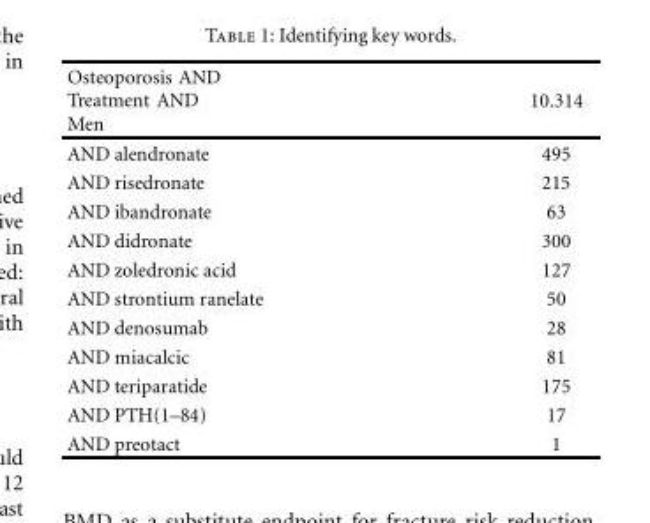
<table><thead><tr><td>Osteoporosis AND Treatment AND Men</td><td>10.314</td></tr></thead><tbody><tr><td>AND alendronate</td><td>495</td></tr><tr><td>AND risedronate</td><td>215</td></tr><tr><td>AND ibandronate</td><td>63</td></tr><tr><td>AND didronate</td><td>300</td></tr><tr><td>AND zoledronic acid</td><td>127</td></tr><tr><td>AND strontium ranelate</td><td>50</td></tr><tr><td>AND denosumab</td><td>28</td></tr><tr><td>AND miacalcic</td><td>81</td></tr><tr><td>AND teriparatide</td><td>175</td></tr><tr><td>AND PTH(1–84)</td><td>17</td></tr><tr><td>AND preotact</td><td>1</td></tr></tbody></table>